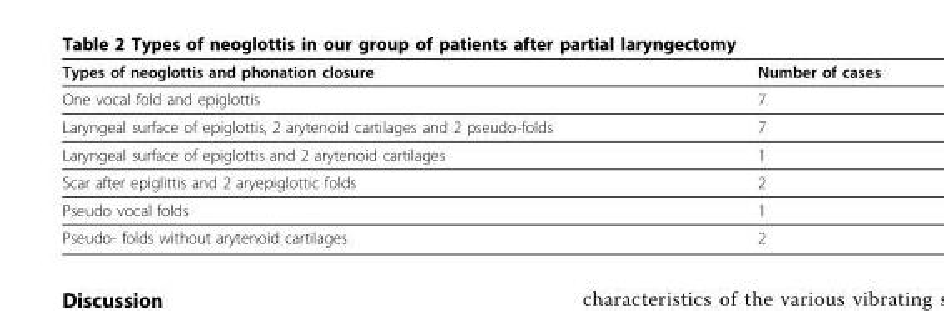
<table><thead><tr><td>Types of neoglottis and phonation closure</td><td>Number of cases</td></tr></thead><tbody><tr><td>One vocal fold and epiglottis</td><td>7</td></tr><tr><td>Laryngeal surface of epiglottis, 2 arytenoid cartilages and 2 pseudo-folds</td><td>7</td></tr><tr><td>Laryngeal surface of epiglottis and 2 arytenoid cartilages</td><td>1</td></tr><tr><td>Scar after epiglittis and 2 aryepiglottic folds</td><td>2</td></tr><tr><td>Pseudo vocal folds</td><td>1</td></tr><tr><td>Pseudo- folds without arytenoid cartilages</td><td>2</td></tr></tbody></table>